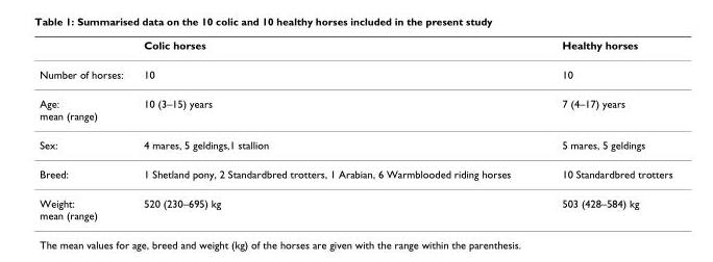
<table><thead><tr><td></td><td>Colic horses</td><td>Healthy horses</td></tr></thead><tbody><tr><td>Number of horses:</td><td>10</td><td>10</td></tr><tr><td>Age: mean (range)</td><td>10 (3–15) years</td><td>7 (4–17) years</td></tr><tr><td>Sex:</td><td>4 mares, 5 geldings,1 stallion</td><td>5 mares, 5 geldings</td></tr><tr><td>Breed:</td><td>1 Shetland pony, 2 Standardbred trotters, 1 Arabian, 6 Warmblooded riding horses</td><td>10 Standardbred trotters</td></tr><tr><td>Weight: mean (range)</td><td>520 (230–695) kg</td><td>503 (428–584) kg</td></tr></tbody></table>